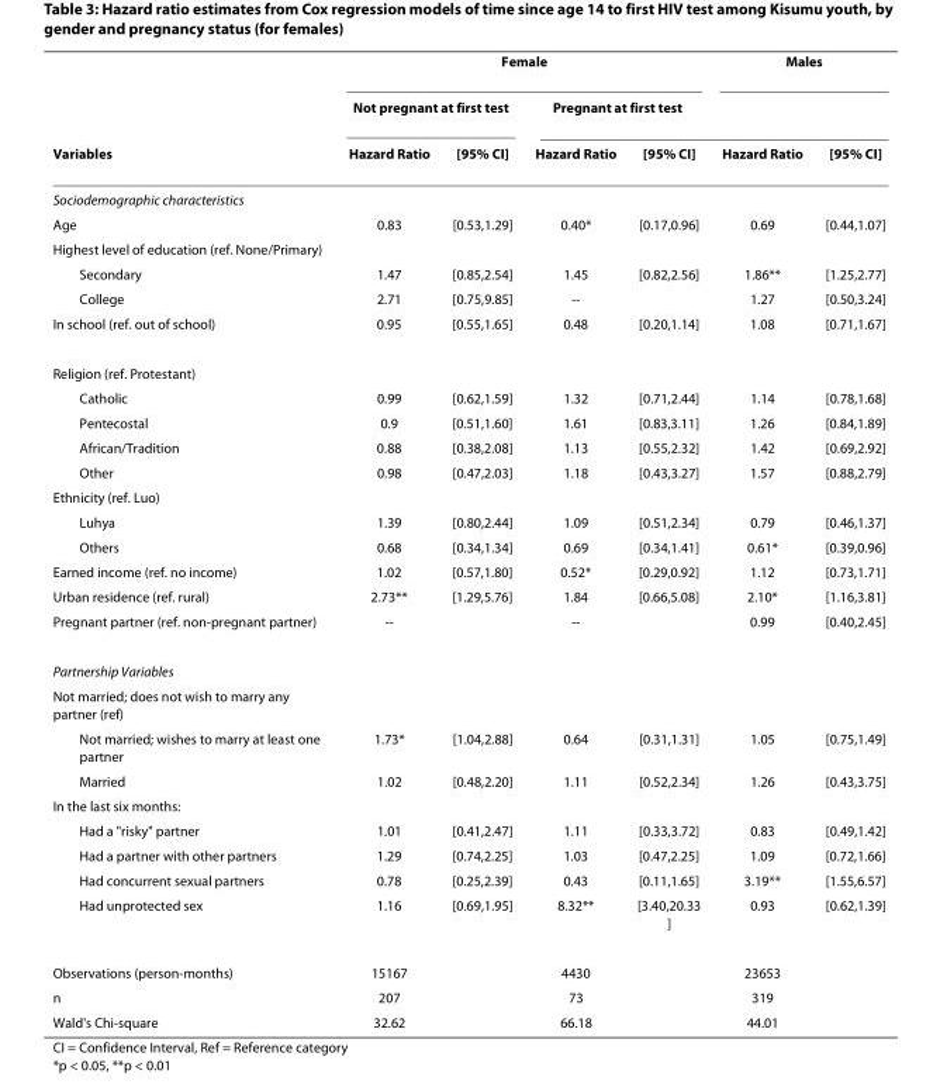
<table><thead><tr><td rowspan="3">Variables</td><td colspan="4">Female</td><td colspan="2">Males</td></tr><tr><td colspan="2">Not pregnant at first test</td><td colspan="2">Pregnant at first test</td><td rowspan="2">Hazard Ratio</td><td rowspan="2">[95% CI]</td></tr><tr><td>Hazard Ratio</td><td>[95% CI]</td><td>Hazard Ratio</td><td>[95% CI]</td></tr></thead><tbody><tr><td colspan="7">Sociodemographic characteristics</td></tr><tr><td>Age</td><td>0.83</td><td>[0.53,1.29]</td><td>0.40*</td><td>[0.17,0.96]</td><td>0.69</td><td>[0.44,1.07]</td></tr><tr><td colspan="7">Highest level of education (ref. None/Primary)</td></tr><tr><td>Secondary</td><td>1.47</td><td>[0.85,2.54]</td><td>1.45</td><td>[0.82,2.56]</td><td>1.86**</td><td>[1.25,2.77]</td></tr><tr><td>College</td><td>2.71</td><td>[0.75,9.85]</td><td>--</td><td></td><td>1.27</td><td>[0.50,3.24]</td></tr><tr><td>In school (ref. out of school)</td><td>0.95</td><td>[0.55,1.65]</td><td>0.48</td><td>[0.20,1.14]</td><td>1.08</td><td>[0.71,1.67]</td></tr><tr><td colspan="7">Religion (ref. Protestant)</td></tr><tr><td>Catholic</td><td>0.99</td><td>[0.62,1.59]</td><td>1.32</td><td>[0.71,2.44]</td><td>1.14</td><td>[0.78,1.68]</td></tr><tr><td>Pentecostal</td><td>0.9</td><td>[0.51,1.60]</td><td>1.61</td><td>[0.83,3.11]</td><td>1.26</td><td>[0.84,1.89]</td></tr><tr><td>African/Tradition</td><td>0.88</td><td>[0.38,2.08]</td><td>1.13</td><td>[0.55,2.32]</td><td>1.42</td><td>[0.69,2.92]</td></tr><tr><td>Other</td><td>0.98</td><td>[0.47,2.03]</td><td>1.18</td><td>[0.43,3.27]</td><td>1.57</td><td>[0.88,2.79]</td></tr><tr><td colspan="7">Ethnicity (ref. Luo)</td></tr><tr><td>Luhya</td><td>1.39</td><td>[0.80,2.44]</td><td>1.09</td><td>[0.51,2.34]</td><td>0.79</td><td>[0.46,1.37]</td></tr><tr><td>Others</td><td>0.68</td><td>[0.34,1.34]</td><td>0.69</td><td>[0.34,1.41]</td><td>0.61*</td><td>[0.39,0.96]</td></tr><tr><td>Earned income (ref. no income)</td><td>1.02</td><td>[0.57,1.80]</td><td>0.52*</td><td>[0.29,0.92]</td><td>1.12</td><td>[0.73,1.71]</td></tr><tr><td>Urban residence (ref. rural)</td><td>2.73**</td><td>[1.29,5.76]</td><td>1.84</td><td>[0.66,5.08]</td><td>2.10*</td><td>[1.16,3.81]</td></tr><tr><td>Pregnant partner (ref. non-pregnant partner)</td><td>--</td><td></td><td>--</td><td></td><td>0.99</td><td>[0.40,2.45]</td></tr><tr><td colspan="7">Partnership Variables</td></tr><tr><td colspan="7">Not married; does not wish to marry any partner (ref)</td></tr><tr><td>Not married; wishes to marry at least one partner</td><td>1.73*</td><td>[1.04,2.88]</td><td>0.64</td><td>[0.31,1.31]</td><td>1.05</td><td>[0.75,1.49]</td></tr><tr><td>Married</td><td>1.02</td><td>[0.48,2.20]</td><td>1.11</td><td>[0.52,2.34]</td><td>1.26</td><td>[0.43,3.75]</td></tr><tr><td colspan="7">In the last six months:</td></tr><tr><td>Had a &quot;risky&quot; partner</td><td>1.01</td><td>[0.41,2.47]</td><td>1.11</td><td>[0.33,3.72]</td><td>0.83</td><td>[0.49,1.42]</td></tr><tr><td>Had a partner with other partners</td><td>1.29</td><td>[0.74,2.25]</td><td>1.03</td><td>[0.47,2.25]</td><td>1.09</td><td>[0.72,1.66]</td></tr><tr><td>Had concurrent sexual partners</td><td>0.78</td><td>[0.25,2.39]</td><td>0.43</td><td>[0.11,1.65]</td><td>3.19**</td><td>[1.55,6.57]</td></tr><tr><td>Had unprotected sex</td><td>1.16</td><td>[0.69,1.95]</td><td>8.32**</td><td>[3.40,20.33 ]</td><td>0.93</td><td>[0.62,1.39]</td></tr><tr><td>Observations (person-months)</td><td>15167</td><td></td><td>4430</td><td></td><td>23653</td><td></td></tr><tr><td>n</td><td>207</td><td></td><td>73</td><td></td><td>319</td><td></td></tr><tr><td>Wald&#x27;s Chi-square</td><td>32.62</td><td></td><td>66.18</td><td></td><td>44.01</td><td></td></tr></tbody></table>